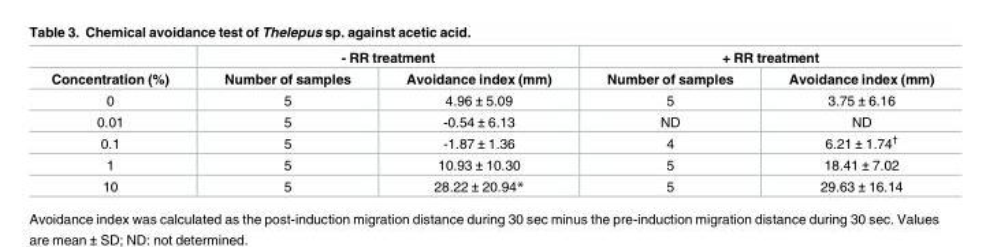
<table><thead><tr><td rowspan="2">Concentration (%)</td><td colspan="2">- RR treatment</td><td colspan="2">+ RR treatment</td></tr><tr><td>Number of samples</td><td>Avoidance index (mm)</td><td>Number of samples</td><td>Avoidance index (mm)</td></tr></thead><tbody><tr><td>0</td><td>5</td><td>4.96 ± 5.09</td><td>5</td><td>3.75 ± 6.16</td></tr><tr><td>0.01</td><td>5</td><td>-0.54 ± 6.13</td><td>ND</td><td>ND</td></tr><tr><td>0.1</td><td>5</td><td>-1.87 ± 1.36</td><td>4</td><td>6.21 ± 1.74<sup>†</sup></td></tr><tr><td>1</td><td>5</td><td>10.93 ± 10.30</td><td>5</td><td>18.41 ± 7.02</td></tr><tr><td>10</td><td>5</td><td>28.22 ± 20.94*</td><td>5</td><td>29.63 ± 16.14</td></tr></tbody></table>